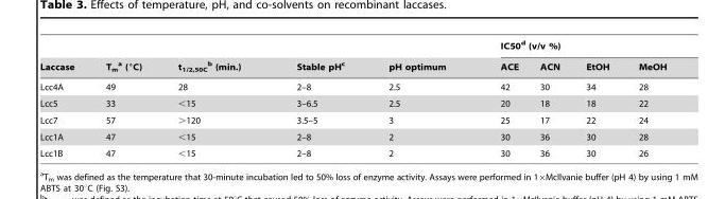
<table><thead><tr><td rowspan="2">Laccase</td><td rowspan="2">T<sub>m</sub> a (°C)</td><td rowspan="2">t<sub>1/2,50C</sub> b (min.)</td><td rowspan="2">Stable pH<sup>c</sup></td><td rowspan="2">pH optimum</td><td colspan="4">IC50<sup>d</sup> (v/v %)</td></tr><tr><td>ACE</td><td>ACN</td><td>EtOH</td><td>MeOH</td></tr></thead><tbody><tr><td>Lcc4A</td><td>49</td><td>28</td><td>2–8</td><td>2.5</td><td>42</td><td>30</td><td>34</td><td>28</td></tr><tr><td>Lcc5</td><td>33</td><td>&lt;15</td><td>3–6.5</td><td>2.5</td><td>20</td><td>18</td><td>18</td><td>22</td></tr><tr><td>Lcc7</td><td>57</td><td>&gt;120</td><td>3.5–5</td><td>3</td><td>25</td><td>17</td><td>22</td><td>24</td></tr><tr><td>Lcc1A</td><td>47</td><td>&lt;15</td><td>2–8</td><td>2</td><td>30</td><td>36</td><td>30</td><td>28</td></tr><tr><td>Lcc1B</td><td>47</td><td>&lt;15</td><td>2–8</td><td>2</td><td>30</td><td>36</td><td>30</td><td>26</td></tr></tbody></table>